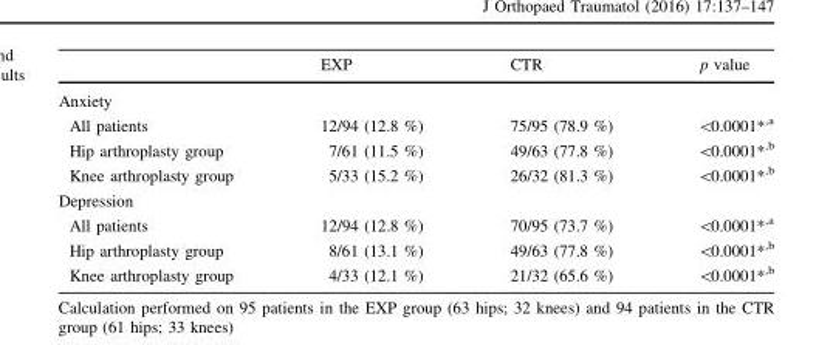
<table><thead><tr><td></td><td>EXP</td><td>CTR</td><td>p value</td></tr></thead><tbody><tr><td colspan="4">Anxiety</td></tr><tr><td>All patients</td><td>12/94 (12.8 %)</td><td>75/95 (78.9 %)</td><td>&lt;0.0001*<sup>,a</sup></td></tr><tr><td>Hip arthroplasty group</td><td>7/61 (11.5 %)</td><td>49/63 (77.8 %)</td><td>&lt;0.0001*<sup>,b</sup></td></tr><tr><td>Knee arthroplasty group</td><td>5/33 (15.2 %)</td><td>26/32 (81.3 %)</td><td>&lt;0.0001*<sup>,b</sup></td></tr><tr><td colspan="4">Depression</td></tr><tr><td>All patients</td><td>12/94 (12.8 %)</td><td>70/95 (73.7 %)</td><td>&lt;0.0001*<sup>,a</sup></td></tr><tr><td>Hip arthroplasty group</td><td>8/61 (13.1 %)</td><td>49/63 (77.8 %)</td><td>&lt;0.0001*<sup>,b</sup></td></tr><tr><td>Knee arthroplasty group</td><td>4/33 (12.1 %)</td><td>21/32 (65.6 %)</td><td>&lt;0.0001*<sup>,b</sup></td></tr></tbody></table>